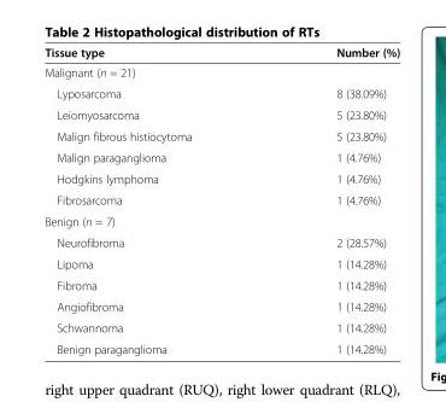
<table><thead><tr><td>Tissue type</td><td>Number (%)</td></tr></thead><tbody><tr><td colspan="2">Malignant (n = 21)</td></tr><tr><td>Lyposarcoma</td><td>8 (38.09%)</td></tr><tr><td>Leiomyosarcoma</td><td>5 (23.80%)</td></tr><tr><td>Malign fibrous histiocytoma</td><td>5 (23.80%)</td></tr><tr><td>Malign paraganglioma</td><td>1 (4.76%)</td></tr><tr><td>Hodgkins lymphoma</td><td>1 (4.76%)</td></tr><tr><td>Fibrosarcoma</td><td>1 (4.76%)</td></tr><tr><td colspan="2">Benign (n = 7)</td></tr><tr><td>Neurofibroma</td><td>2 (28.57%)</td></tr><tr><td>Lipoma</td><td>1 (14.28%)</td></tr><tr><td>Fibroma</td><td>1 (14.28%)</td></tr><tr><td>Angiofibroma</td><td>1 (14.28%)</td></tr><tr><td>Schwannoma</td><td>1 (14.28%)</td></tr><tr><td>Benign paraganglioma</td><td>1 (14.28%)</td></tr></tbody></table>